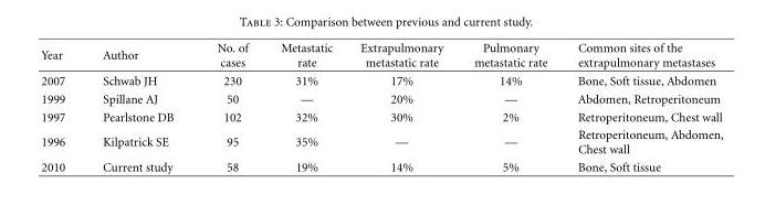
<table><thead><tr><td>Year</td><td>Author</td><td>No. of cases</td><td>Metastatic rate</td><td>Extrapulmonary metastatic rate</td><td>Pulmonary metastatic rate</td><td>Common sites of the extrapulmonary metastases</td></tr></thead><tbody><tr><td>2007</td><td>Schwab JH</td><td>230</td><td>31%</td><td>17%</td><td>14%</td><td>Bone, Soft tissue, Abdomen</td></tr><tr><td>1999</td><td>Spillane AJ</td><td>50</td><td>—</td><td>20%</td><td>—</td><td>Abdomen, Retroperitoneum</td></tr><tr><td>1997</td><td>Pearlstone DB</td><td>102</td><td>32%</td><td>30%</td><td>2%</td><td>Retroperitoneum, Chest wall</td></tr><tr><td>1996</td><td>Kilpatrick SE</td><td>95</td><td>35%</td><td>—</td><td>—</td><td>Retroperitoneum, Abdomen, Chest wall</td></tr><tr><td>2010</td><td>Current study</td><td>58</td><td>19%</td><td>14%</td><td>5%</td><td>Bone, Soft tissue</td></tr></tbody></table>